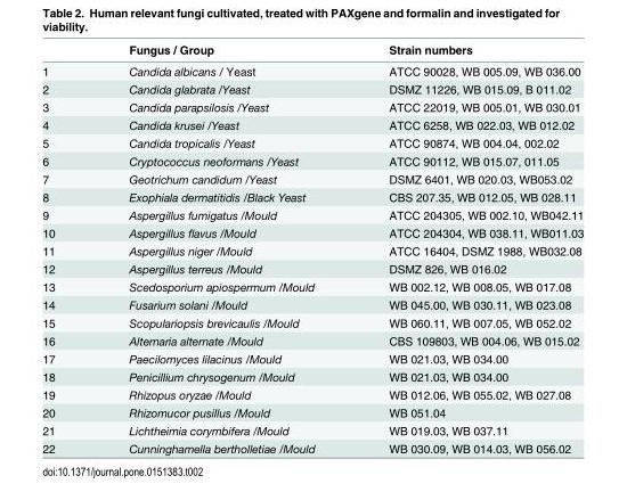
<table><thead><tr><td></td><td>Fungus / Group</td><td>Strain numbers</td></tr></thead><tbody><tr><td>1</td><td>Candida albicans / Yeast</td><td>ATCC 90028, WB 005.09, WB 036.00</td></tr><tr><td>2</td><td>Candida glabrata /Yeast</td><td>DSMZ 11226, WB 015.09, B 011.02</td></tr><tr><td>3</td><td>Candida parapsilosis /Yeast</td><td>ATCC 22019, WB 005.01, WB 030.01</td></tr><tr><td>4</td><td>Candida krusei /Yeast</td><td>ATCC 6258, WB 022.03, WB 012.02</td></tr><tr><td>5</td><td>Candida tropicalis /Yeast</td><td>ATCC 90874, WB 004.04, 002.02</td></tr><tr><td>6</td><td>Cryptococcus neoformans /Yeast</td><td>ATCC 90112, WB 015.07, 011.05</td></tr><tr><td>7</td><td>Geotrichum candidum /Yeast</td><td>DSMZ 6401, WB 020.03, WB053.02</td></tr><tr><td>8</td><td>Exophiala dermatitidis /Black Yeast</td><td>CBS 207.35, WB 012.05, WB 028.11</td></tr><tr><td>9</td><td>Aspergillus fumigatus /Mould</td><td>ATCC 204305, WB 002.10, WB042.11</td></tr><tr><td>10</td><td>Aspergillus flavus /Mould</td><td>ATCC 204304, WB 038.11, WB011.03</td></tr><tr><td>11</td><td>Aspergillus niger /Mould</td><td>ATCC 16404, DSMZ 1988, WB032.08</td></tr><tr><td>12</td><td>Aspergillus terreus /Mould</td><td>DSMZ 826, WB 016.02</td></tr><tr><td>13</td><td>Scedosporium apiospermum /Mould</td><td>WB 002.12, WB 008.05, WB 017.08</td></tr><tr><td>14</td><td>Fusarium solani /Mould</td><td>WB 045.00, WB 030.11, WB 023.08</td></tr><tr><td>15</td><td>Scopulariopsis brevicaulis /Mould</td><td>WB 060.11, WB 007.05, WB 052.02</td></tr><tr><td>16</td><td>Alternaria alternate /Mould</td><td>CBS 109803, WB 004.06, WB 015.02</td></tr><tr><td>17</td><td>Paecilomyces lilacinus /Mould</td><td>WB 021.03, WB 034.00</td></tr><tr><td>18</td><td>Penicillium chrysogenum /Mould</td><td>WB 021.03, WB 034.00</td></tr><tr><td>19</td><td>Rhizopus oryzae /Mould</td><td>WB 012.06, WB 055.02, WB 027.08</td></tr><tr><td>20</td><td>Rhizomucor pusillus /Mould</td><td>WB 051.04</td></tr><tr><td>21</td><td>Lichtheimia corymbifera /Mould</td><td>WB 019.03, WB 037.11</td></tr><tr><td>22</td><td>Cunninghamella bertholletiae /Mould</td><td>WB 030.09, WB 014.03, WB 056.02</td></tr></tbody></table>